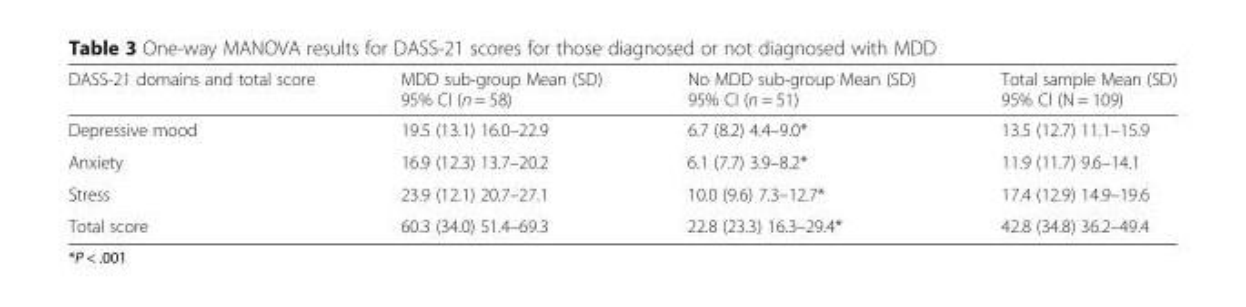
<table><thead><tr><td>DASS-21 domains and total score</td><td>MDD sub-group Mean (SD) 95% CI (n = 58)</td><td>No MDD sub-group Mean (SD) 95% CI (n = 51)</td><td>Total sample Mean (SD) 95% CI (N = 109)</td></tr></thead><tbody><tr><td>Depressive mood</td><td>19.5 (13.1) 16.0–22.9</td><td>6.7 (8.2) 4.4–9.0*</td><td>13.5 (12.7) 11.1–15.9</td></tr><tr><td>Anxiety</td><td>16.9 (12.3) 13.7–20.2</td><td>6.1 (7.7) 3.9–8.2*</td><td>11.9 (11.7) 9.6–14.1</td></tr><tr><td>Stress</td><td>23.9 (12.1) 20.7–27.1</td><td>10.0 (9.6) 7.3–12.7*</td><td>17.4 (12.9) 14.9–19.6</td></tr><tr><td>Total score</td><td>60.3 (34.0) 51.4–69.3</td><td>22.8 (23.3) 16.3–29.4*</td><td>42.8 (34.8) 36.2–49.4</td></tr></tbody></table>